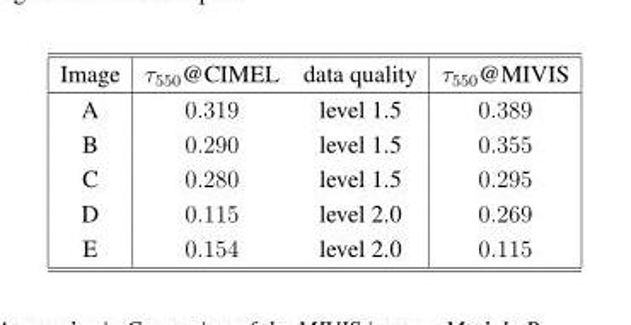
<table><thead><tr><td>Image</td><td>τ<sub>550</sub>@CIMEL</td><td>data quality</td><td>τ<sub>550</sub>@MIVIS</td></tr></thead><tbody><tr><td>A</td><td>0.319</td><td>level 1.5</td><td>0.389</td></tr><tr><td>B</td><td>0.290</td><td>level 1.5</td><td>0.355</td></tr><tr><td>C</td><td>0.280</td><td>level 1.5</td><td>0.295</td></tr><tr><td>D</td><td>0.115</td><td>level 2.0</td><td>0.269</td></tr><tr><td>E</td><td>0.154</td><td>level 2.0</td><td>0.115</td></tr></tbody></table>